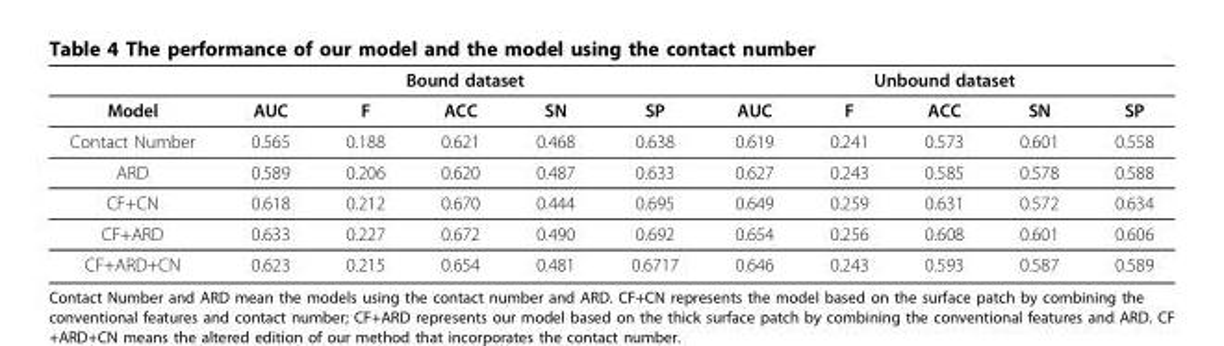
<table><thead><tr><td rowspan="2">Model</td><td colspan="5">Bound dataset</td><td colspan="5">Unbound dataset</td></tr><tr><td>AUC</td><td>F</td><td>ACC</td><td>SN</td><td>SP</td><td>AUC</td><td>F</td><td>ACC</td><td>SN</td><td>SP</td></tr></thead><tbody><tr><td>Contact Number</td><td>0.565</td><td>0.188</td><td>0.621</td><td>0.468</td><td>0.638</td><td>0.619</td><td>0.241</td><td>0.573</td><td>0.601</td><td>0.558</td></tr><tr><td>ARD</td><td>0.589</td><td>0.206</td><td>0.620</td><td>0.487</td><td>0.633</td><td>0.627</td><td>0.243</td><td>0.585</td><td>0.578</td><td>0.588</td></tr><tr><td>CF+CN</td><td>0.618</td><td>0.212</td><td>0.670</td><td>0.444</td><td>0.695</td><td>0.649</td><td>0.259</td><td>0.631</td><td>0.572</td><td>0.634</td></tr><tr><td>CF+ARD</td><td>0.633</td><td>0.227</td><td>0.672</td><td>0.490</td><td>0.692</td><td>0.654</td><td>0.256</td><td>0.608</td><td>0.601</td><td>0.606</td></tr><tr><td>CF+ARD+CN</td><td>0.623</td><td>0.215</td><td>0.654</td><td>0.481</td><td>0.6717</td><td>0.646</td><td>0.243</td><td>0.593</td><td>0.587</td><td>0.589</td></tr></tbody></table>